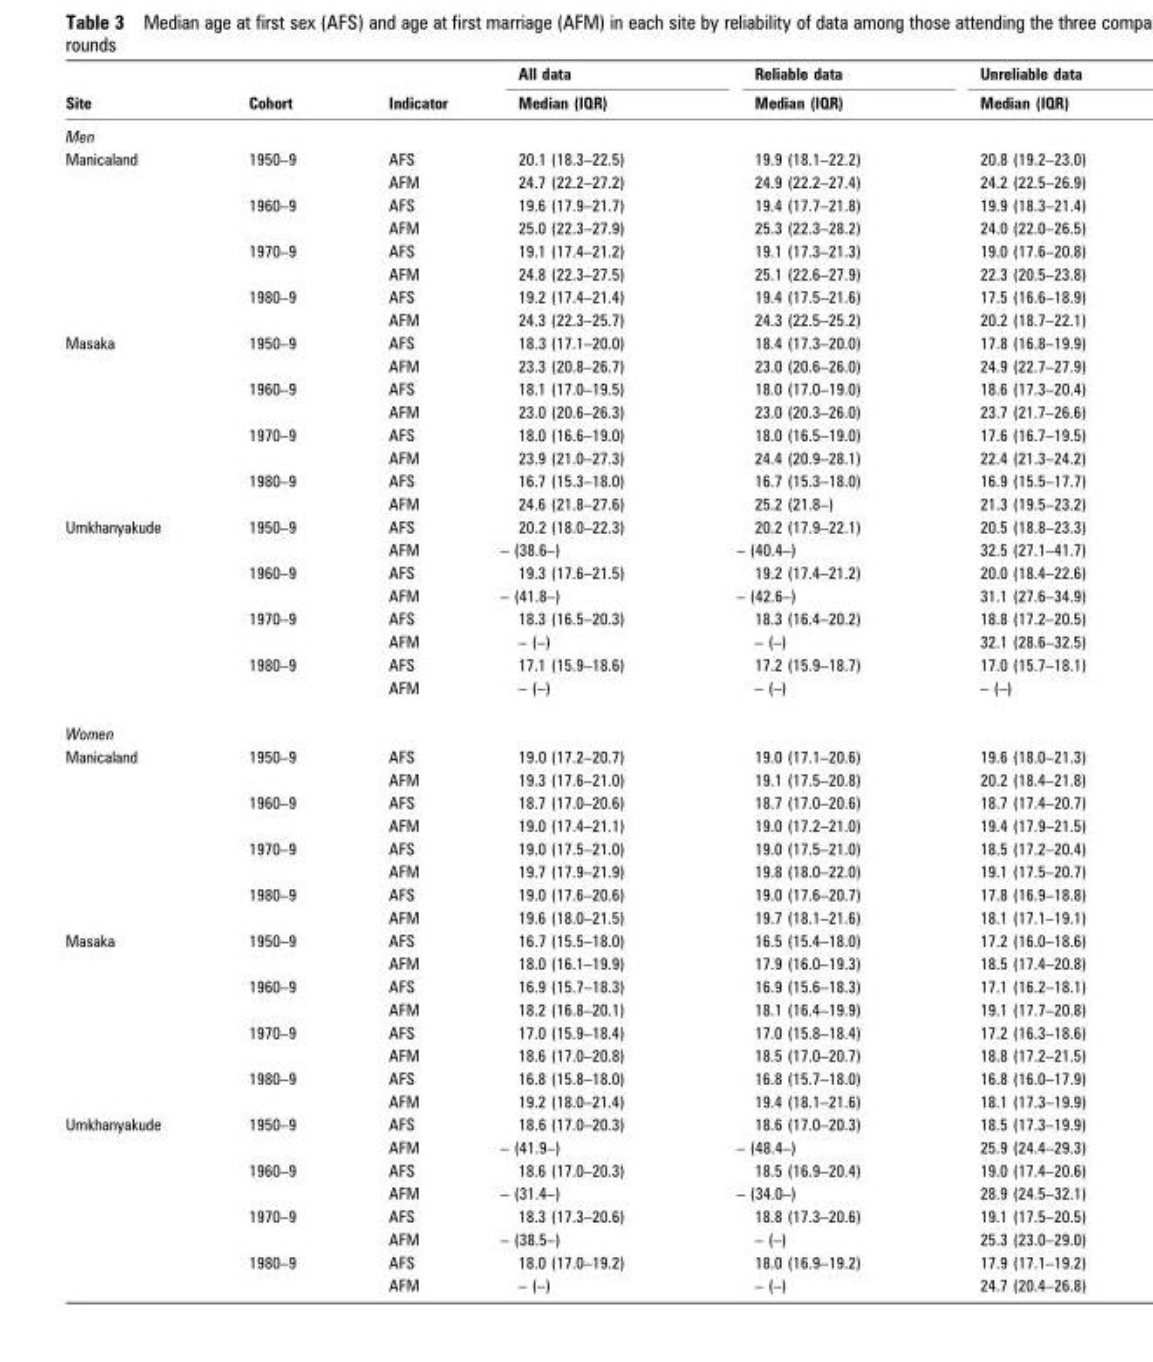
<table><thead><tr><td rowspan="2">Site</td><td rowspan="2">Cohort</td><td rowspan="2">Indicator</td><td rowspan="2">All data Median (IQR)</td><td rowspan="2">Reliable data Median (IQR)</td><td rowspan="2">Unreliable data Median (IQR)</td></tr><tr></tr></thead><tbody><tr><td colspan="6">Men</td></tr><tr><td rowspan="8">Manicaland</td><td rowspan="2">1950–9</td><td>AFS</td><td>20.1 (18.3–22.5)</td><td>19.9 (18.1–22.2)</td><td>20.8 (19.2–23.0)</td></tr><tr><td>AFM</td><td>24.7 (22.2–27.2)</td><td>24.9 (22.2–27.4)</td><td>24.2 (22.5–26.9)</td></tr><tr><td rowspan="2">1960–9</td><td>AFS</td><td>19.6 (17.9–21.7)</td><td>19.4 (17.7–21.8)</td><td>19.9 (18.3–21.4)</td></tr><tr><td>AFM</td><td>25.0 (22.3–27.9)</td><td>25.3 (22.3–28.2)</td><td>24.0 (22.0–26.5)</td></tr><tr><td rowspan="2">1970–9</td><td>AFS</td><td>19.1 (17.4–21.2)</td><td>19.1 (17.3–21.3)</td><td>19.0 (17.6–20.8)</td></tr><tr><td>AFM</td><td>24.8 (22.3–27.5)</td><td>25.1 (22.6–27.9)</td><td>22.3 (20.5–23.8)</td></tr><tr><td rowspan="2">1980–9</td><td>AFS</td><td>19.2 (17.4–21.4)</td><td>19.4 (17.5–21.6)</td><td>17.5 (16.6–18.9)</td></tr><tr><td>AFM</td><td>24.3 (22.3–25.7)</td><td>24.3 (22.5–25.2)</td><td>20.2 (18.7–22.1)</td></tr><tr><td rowspan="8">Masaka</td><td rowspan="2">1950–9</td><td>AFS</td><td>18.3 (17.1–20.0)</td><td>18.4 (17.3–20.0)</td><td>17.8 (16.8–19.9)</td></tr><tr><td>AFM</td><td>23.3 (20.8–26.7)</td><td>23.0 (20.6–26.0)</td><td>24.9 (22.7–27.9)</td></tr><tr><td rowspan="2">1960–9</td><td>AFS</td><td>18.1 (17.0–19.5)</td><td>18.0 (17.0–19.0)</td><td>18.6 (17.3–20.4)</td></tr><tr><td>AFM</td><td>23.0 (20.6–26.3)</td><td>23.0 (20.3–26.0)</td><td>23.7 (21.7–26.6)</td></tr><tr><td rowspan="2">1970–9</td><td>AFS</td><td>18.0 (16.6–19.0)</td><td>18.0 (16.5–19.0)</td><td>17.6 (16.7–19.5)</td></tr><tr><td>AFM</td><td>23.9 (21.0–27.3)</td><td>24.4 (20.9–28.1)</td><td>22.4 (21.3–24.2)</td></tr><tr><td rowspan="2">1980–9</td><td>AFS</td><td>16.7 (15.3–18.0)</td><td>16.7 (15.3–18.0)</td><td>16.9 (15.5–17.7)</td></tr><tr><td>AFM</td><td>24.6 (21.8–27.6)</td><td>25.2 (21.8–)</td><td>21.3 (19.5–23.2)</td></tr><tr><td rowspan="8">Umkhanyakude</td><td rowspan="2">1950–9</td><td>AFS</td><td>20.2 (18.0–22.3)</td><td>20.2 (17.9–22.1)</td><td>20.5 (18.8–23.3)</td></tr><tr><td>AFM</td><td>– (38.6–)</td><td>– (40.4–)</td><td>32.5 (27.1–41.7)</td></tr><tr><td rowspan="2">1960–9</td><td>AFS</td><td>19.3 (17.6–21.5)</td><td>19.2 (17.4–21.2)</td><td>20.0 (18.4–22.6)</td></tr><tr><td>AFM</td><td>– (41.8–)</td><td>– (42.6–)</td><td>31.1 (27.6–34.9)</td></tr><tr><td rowspan="2">1970–9</td><td>AFS</td><td>18.3 (16.5–20.3)</td><td>18.3 (16.4–20.2)</td><td>18.8 (17.2–20.5)</td></tr><tr><td>AFM</td><td>– (–)</td><td>– (–)</td><td>32.1 (28.6–32.5)</td></tr><tr><td rowspan="2">1980–9</td><td>AFS</td><td>17.1 (15.9–18.6)</td><td>17.2 (15.9–18.7)</td><td>17.0 (15.7–18.1)</td></tr><tr><td>AFM</td><td>– (–)</td><td>– (–)</td><td>– (–)</td></tr><tr><td colspan="6">Women</td></tr><tr><td rowspan="8">Manicaland</td><td rowspan="2">1950–9</td><td>AFS</td><td>19.0 (17.2–20.7)</td><td>19.0 (17.1–20.6)</td><td>19.6 (18.0–21.3)</td></tr><tr><td>AFM</td><td>19.3 (17.6–21.0)</td><td>19.1 (17.5–20.8)</td><td>20.2 (18.4–21.8)</td></tr><tr><td rowspan="2">1960–9</td><td>AFS</td><td>18.7 (17.0–20.6)</td><td>18.7 (17.0–20.6)</td><td>18.7 (17.4–20.7)</td></tr><tr><td>AFM</td><td>19.0 (17.4–21.1)</td><td>19.0 (17.2–21.0)</td><td>19.4 (17.9–21.5)</td></tr><tr><td rowspan="2">1970–9</td><td>AFS</td><td>19.0 (17.5–21.0)</td><td>19.0 (17.5–21.0)</td><td>18.5 (17.2–20.4)</td></tr><tr><td>AFM</td><td>19.7 (17.9–21.9)</td><td>19.8 (18.0–22.0)</td><td>19.1 (17.5–20.7)</td></tr><tr><td rowspan="2">1980–9</td><td>AFS</td><td>19.0 (17.6–20.6)</td><td>19.0 (17.6–20.7)</td><td>17.8 (16.9–18.8)</td></tr><tr><td>AFM</td><td>19.6 (18.0–21.5)</td><td>19.7 (18.1–21.6)</td><td>18.1 (17.1–19.1)</td></tr><tr><td rowspan="8">Masaka</td><td rowspan="2">1950–9</td><td>AFS</td><td>16.7 (15.5–18.0)</td><td>16.5 (15.4–18.0)</td><td>17.2 (16.0–18.6)</td></tr><tr><td>AFM</td><td>18.0 (16.1–19.9)</td><td>17.9 (16.0–19.3)</td><td>18.5 (17.4–20.8)</td></tr><tr><td rowspan="2">1960–9</td><td>AFS</td><td>16.9 (15.7–18.3)</td><td>16.9 (15.6–18.3)</td><td>17.1 (16.2–18.1)</td></tr><tr><td>AFM</td><td>18.2 (16.8–20.1)</td><td>18.1 (16.4–19.9)</td><td>19.1 (17.7–20.8)</td></tr><tr><td rowspan="2">1970–9</td><td>AFS</td><td>17.0 (15.9–18.4)</td><td>17.0 (15.8–18.4)</td><td>17.2 (16.3–18.6)</td></tr><tr><td>AFM</td><td>18.6 (17.0–20.8)</td><td>18.5 (17.0–20.7)</td><td>18.8 (17.2–21.5)</td></tr><tr><td rowspan="2">1980–9</td><td>AFS</td><td>16.8 (15.8–18.0)</td><td>16.8 (15.7–18.0)</td><td>16.8 (16.0–17.9)</td></tr><tr><td>AFM</td><td>19.2 (18.0–21.4)</td><td>19.4 (18.1–21.6)</td><td>18.1 (17.3–19.9)</td></tr><tr><td rowspan="8">Umkhanyakude</td><td rowspan="2">1950–9</td><td>AFS</td><td>18.6 (17.0–20.3)</td><td>18.6 (17.0–20.3)</td><td>18.5 (17.3–19.9)</td></tr><tr><td>AFM</td><td>– (41.9–)</td><td>– (48.4–)</td><td>25.9 (24.4–29.3)</td></tr><tr><td rowspan="2">1960–9</td><td>AFS</td><td>18.6 (17.0–20.3)</td><td>18.5 (16.9–20.4)</td><td>19.0 (17.4–20.6)</td></tr><tr><td>AFM</td><td>– (31.4–)</td><td>– (34.0–)</td><td>28.9 (24.5–32.1)</td></tr><tr><td rowspan="2">1970–9</td><td>AFS</td><td>18.3 (17.3–20.6)</td><td>18.8 (17.3–20.6)</td><td>19.1 (17.5–20.5)</td></tr><tr><td>AFM</td><td>– (38.5–)</td><td>– (–)</td><td>25.3 (23.0–29.0)</td></tr><tr><td rowspan="2">1980–9</td><td>AFS</td><td>18.0 (17.0–19.2)</td><td>18.0 (16.9–19.2)</td><td>17.9 (17.1–19.2)</td></tr><tr><td>AFM</td><td>– (–)</td><td>– (–)</td><td>24.7 (20.4–26.8)</td></tr></tbody></table>